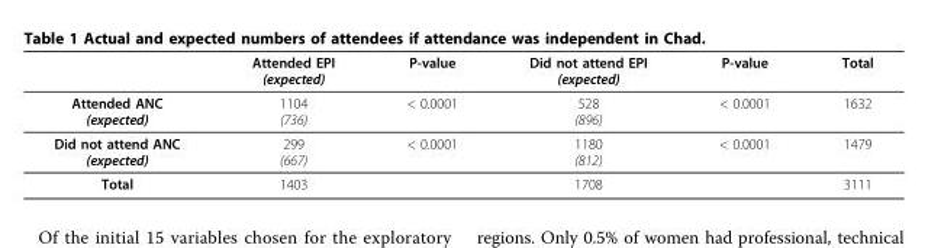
<table><thead><tr><td></td><td>Attended EPI (expected)</td><td>P-value</td><td>Did not attend EPI (expected)</td><td>P-value</td><td>Total</td></tr></thead><tbody><tr><td>Attended ANC (expected)</td><td>1104 (736)</td><td>&lt; 0.0001</td><td>528 (896)</td><td>&lt; 0.0001</td><td>1632</td></tr><tr><td>Did not attend ANC (expected)</td><td>299 (667)</td><td>&lt; 0.0001</td><td>1180 (812)</td><td>&lt; 0.0001</td><td>1479</td></tr><tr><td>Total</td><td>1403</td><td></td><td>1708</td><td></td><td>3111</td></tr></tbody></table>